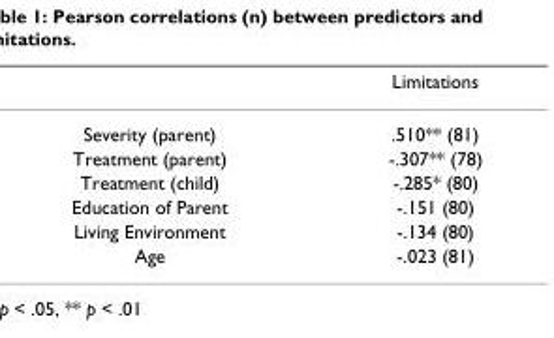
<table><thead><tr><td></td><td>Limitations</td></tr></thead><tbody><tr><td>Severity (parent)</td><td>.510** (81)</td></tr><tr><td>Treatment (parent)</td><td>-.307** (78)</td></tr><tr><td>Treatment (child)</td><td>-.285* (80)</td></tr><tr><td>Education of Parent</td><td>-.151 (80)</td></tr><tr><td>Living Environment</td><td>-.134 (80)</td></tr><tr><td>Age</td><td>-.023 (81)</td></tr></tbody></table>